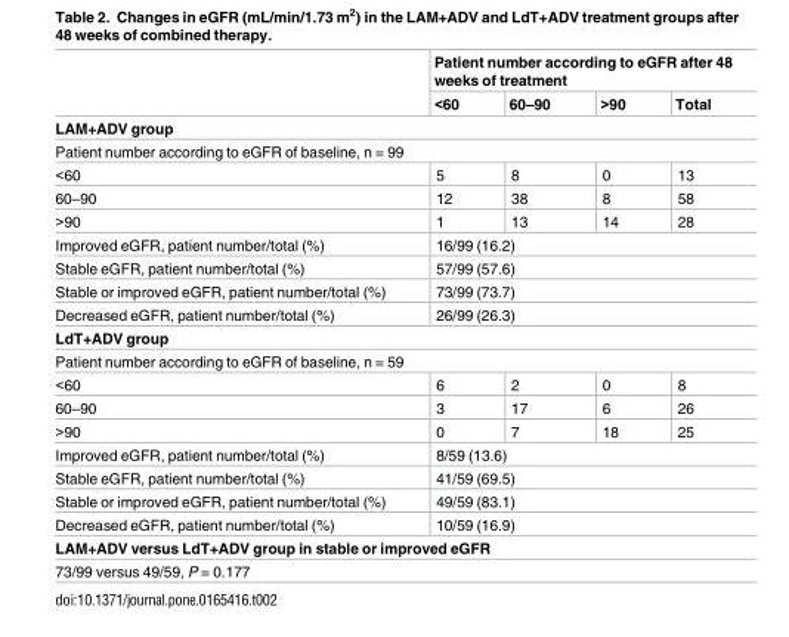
<table><thead><tr><td rowspan="2"></td><td colspan="4">Patient number according to eGFR after 48 weeks of treatment</td></tr><tr><td>&lt;60</td><td>60–90</td><td>&gt;90</td><td>Total</td></tr></thead><tbody><tr><td colspan="5">LAM+ADV group</td></tr><tr><td colspan="5">Patient number according to eGFR of baseline, n = 99</td></tr><tr><td>&lt;60</td><td>5</td><td>8</td><td>0</td><td>13</td></tr><tr><td>60–90</td><td>12</td><td>38</td><td>8</td><td>58</td></tr><tr><td>&gt;90</td><td>1</td><td>13</td><td>14</td><td>28</td></tr><tr><td>Improved eGFR, patient number/total (%)</td><td colspan="4">16/99 (16.2)</td></tr><tr><td>Stable eGFR, patient number/total (%)</td><td colspan="4">57/99 (57.6)</td></tr><tr><td>Stable or improved eGFR, patient number/total (%)</td><td colspan="4">73/99 (73.7)</td></tr><tr><td>Decreased eGFR, patient number/total (%)</td><td colspan="4">26/99 (26.3)</td></tr><tr><td colspan="5">LdT+ADV group</td></tr><tr><td colspan="5">Patient number according to eGFR of baseline, n = 59</td></tr><tr><td>&lt;60</td><td>6</td><td>2</td><td>0</td><td>8</td></tr><tr><td>60–90</td><td>3</td><td>17</td><td>6</td><td>26</td></tr><tr><td>&gt;90</td><td>0</td><td>7</td><td>18</td><td>25</td></tr><tr><td>Improved eGFR, patient number/total (%)</td><td colspan="4">8/59 (13.6)</td></tr><tr><td>Stable eGFR, patient number/total (%)</td><td colspan="4">41/59 (69.5)</td></tr><tr><td>Stable or improved eGFR, patient number/total (%)</td><td colspan="4">49/59 (83.1)</td></tr><tr><td>Decreased eGFR, patient number/total (%)</td><td colspan="4">10/59 (16.9)</td></tr><tr><td colspan="5">LAM+ADV versus LdT+ADV group in stable or improved eGFR</td></tr><tr><td colspan="5">73/99 versus 49/59, P = 0.177</td></tr></tbody></table>